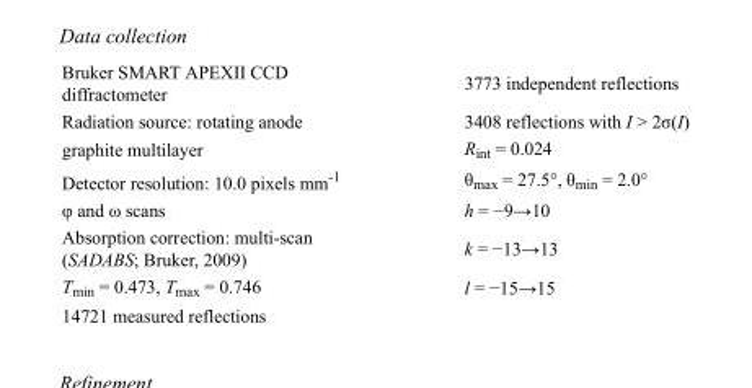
<table><tbody><tr><td>Bruker SMART APEXII CCD diffractometer</td><td>3773 independent reflections</td></tr><tr><td>Radiation source: rotating anode</td><td>3408 reflections with I &gt; 2σ(I)</td></tr><tr><td>graphite multilayer</td><td>R<sub>int</sub> = 0.024</td></tr><tr><td>Detector resolution: 10.0 pixels mm<sup>-1</sup></td><td>θ<sub>max</sub> = 27.5°, θ<sub>min</sub> = 2.0°</td></tr><tr><td>φ and ω scans</td><td>h = −9→10</td></tr><tr><td>Absorption correction: multi-scan (SADABS; Bruker, 2009)</td><td>k = −13→13</td></tr><tr><td>T<sub>min</sub> = 0.473, T<sub>max</sub> = 0.746</td><td>l = −15→15</td></tr><tr><td>14721 measured reflections</td><td></td></tr></tbody></table>